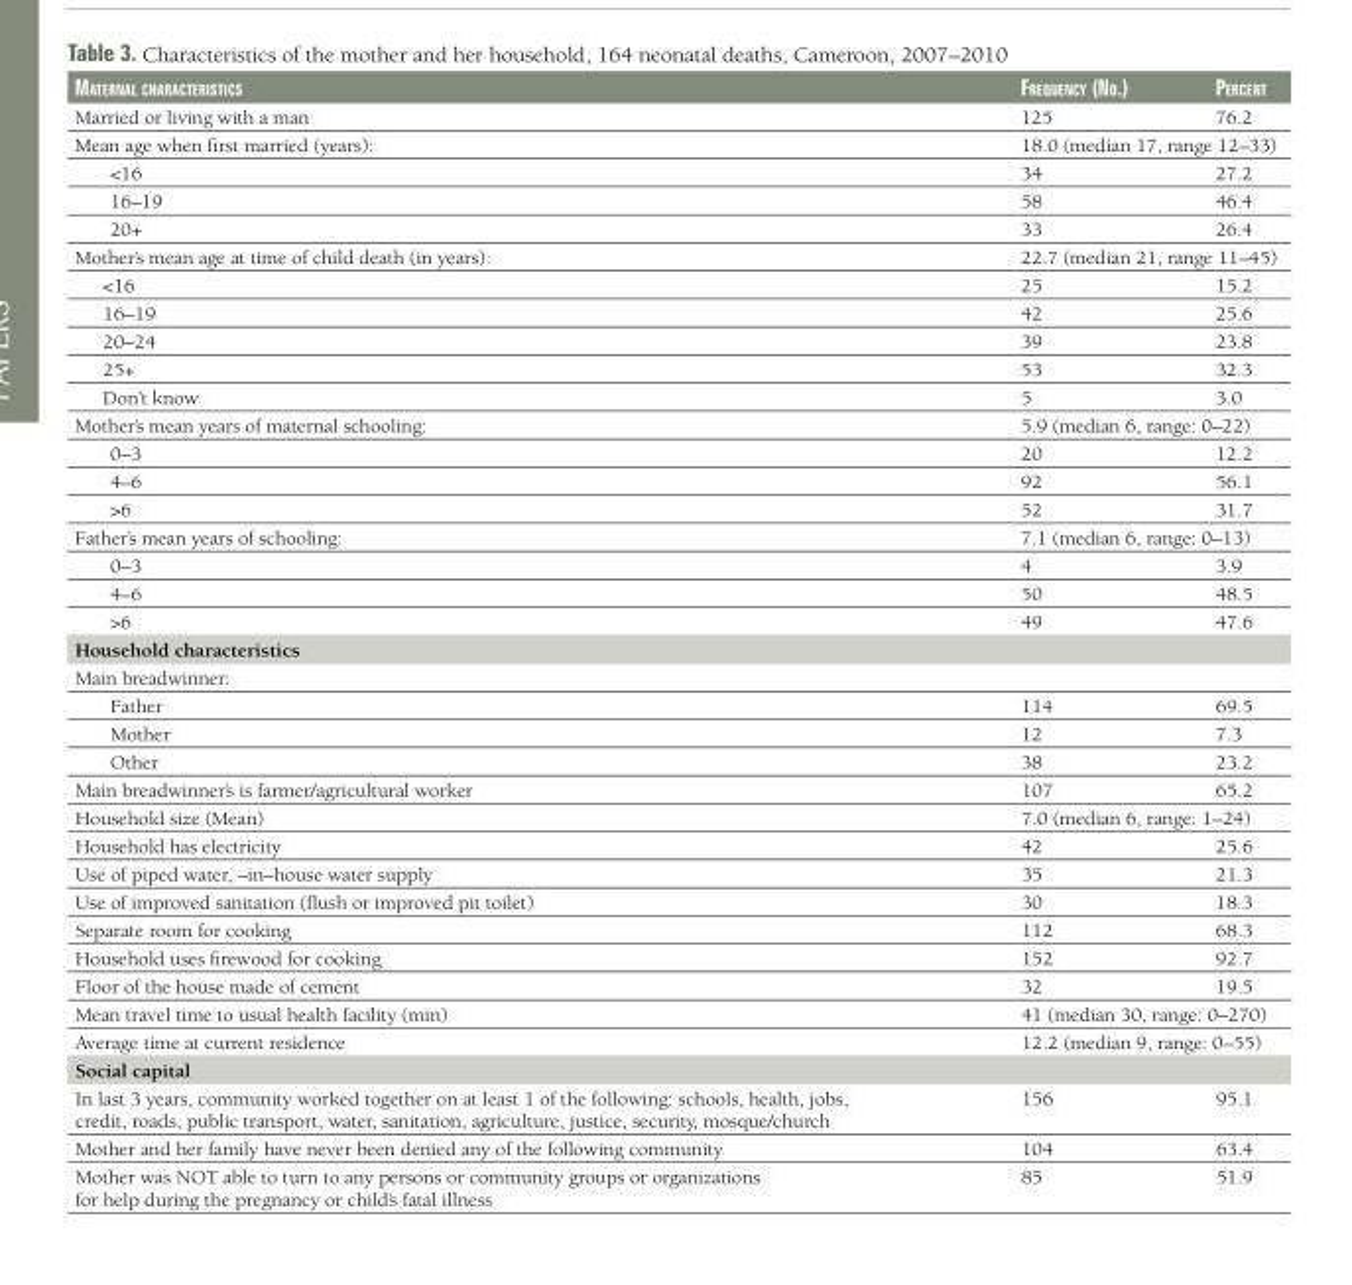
<table><thead><tr><td>Maternal CharaCteristiCs</td><td>FrequenCy (no.)</td><td>PerCent</td></tr></thead><tbody><tr><td>Married or living with a man</td><td>125</td><td>76.2</td></tr><tr><td>Mean age when first married (years):</td><td colspan="2">18.0 (median 17, range 12–33)</td></tr><tr><td>&lt;16</td><td>34</td><td>27.2</td></tr><tr><td>16–19</td><td>58</td><td>46.4</td></tr><tr><td>20+</td><td>33</td><td>26.4</td></tr><tr><td>Mother’s mean age at time of child death (in years):</td><td colspan="2">22.7 (median 21, range 11–45)</td></tr><tr><td>&lt;16</td><td>25</td><td>15.2</td></tr><tr><td>16–19</td><td>42</td><td>25.6</td></tr><tr><td>20–24</td><td>39</td><td>23.8</td></tr><tr><td>25+</td><td>53</td><td>32.3</td></tr><tr><td>Don’t know</td><td>5</td><td>3.0</td></tr><tr><td>Mother’s mean years of maternal schooling:</td><td colspan="2">5.9 (median 6, range: 0–22)</td></tr><tr><td>0–3</td><td>20</td><td>12.2</td></tr><tr><td>4–6</td><td>92</td><td>56.1</td></tr><tr><td>&gt;6</td><td>52</td><td>31.7</td></tr><tr><td>Father’s mean years of schooling:</td><td colspan="2">7.1 (median 6, range: 0–13)</td></tr><tr><td>0–3</td><td>4</td><td>3.9</td></tr><tr><td>4–6</td><td>50</td><td>48.5</td></tr><tr><td>&gt;6</td><td>49</td><td>47.6</td></tr><tr><td colspan="3">Household characteristics</td></tr><tr><td colspan="3">Main breadwinner:</td></tr><tr><td>Father</td><td>114</td><td>69.5</td></tr><tr><td>Mother</td><td>12</td><td>7.3</td></tr><tr><td>Other</td><td>38</td><td>23.2</td></tr><tr><td>Main breadwinner’s is farmer/agricultural worker</td><td>107</td><td>65.2</td></tr><tr><td>Household size (Mean)</td><td colspan="2">7.0 (median 6, range: 1–24)</td></tr><tr><td>Household has electricity</td><td>42</td><td>25.6</td></tr><tr><td>Use of piped water, –in–house water supply</td><td>35</td><td>21.3</td></tr><tr><td>Use of improved sanitation (flush or improved pit toilet)</td><td>30</td><td>18.3</td></tr><tr><td>Separate room for cooking</td><td>112</td><td>68.3</td></tr><tr><td>Household uses firewood for cooking</td><td>152</td><td>92.7</td></tr><tr><td>Floor of the house made of cement</td><td>32</td><td>19.5</td></tr><tr><td>Mean travel time to usual health facility (min)</td><td colspan="2">41 (median 30, range: 0–270)</td></tr><tr><td>Average time at current residence</td><td colspan="2">12.2 (median 9, range: 0–55)</td></tr><tr><td colspan="3">Social capital</td></tr><tr><td>In last 3 years, community worked together on at least 1 of the following: schools, health, jobs, credit, roads, public transport, water, sanitation, agriculture, justice, security, mosque/church</td><td>156</td><td>95.1</td></tr><tr><td>Mother and her family have never been denied any of the following community</td><td>104</td><td>63.4</td></tr><tr><td>Mother was NOT able to turn to any persons or community groups or organizations for help during the pregnancy or child’s fatal illness</td><td>85</td><td>51.9</td></tr></tbody></table>